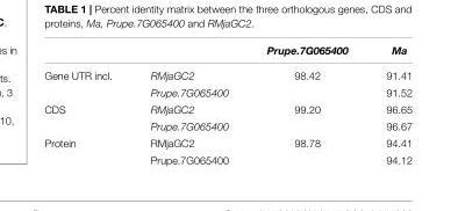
<table><thead><tr><td></td><td></td><td>Prupe.7G065400</td><td>Ma</td></tr></thead><tbody><tr><td rowspan="2">Gene UTR incl.</td><td>RMjaGC2</td><td>98.42</td><td>91.41</td></tr><tr><td>Prupe.7G065400</td><td></td><td>91.52</td></tr><tr><td rowspan="2">CDS</td><td>RMjaGC2</td><td>99.20</td><td>96.65</td></tr><tr><td>Prupe.7G065400</td><td></td><td>96.67</td></tr><tr><td rowspan="2">Protein</td><td>RMjaGC2</td><td>98.78</td><td>94.41</td></tr><tr><td>Prupe.7G065400</td><td></td><td>94.12</td></tr></tbody></table>